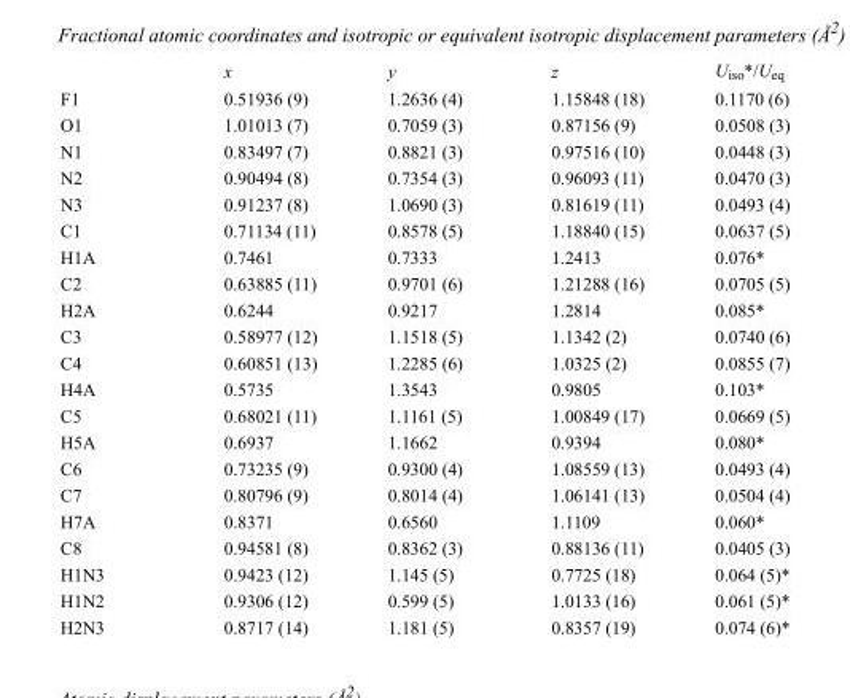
<table><thead><tr><td></td><td>x</td><td>y</td><td>z</td><td>U<sub>iso</sub>*/U<sub>eq</sub></td></tr></thead><tbody><tr><td>F1</td><td>0.51936 (9)</td><td>1.2636 (4)</td><td>1.15848 (18)</td><td>0.1170 (6)</td></tr><tr><td>O1</td><td>1.01013 (7)</td><td>0.7059 (3)</td><td>0.87156 (9)</td><td>0.0508 (3)</td></tr><tr><td>N1</td><td>0.83497 (7)</td><td>0.8821 (3)</td><td>0.97516 (10)</td><td>0.0448 (3)</td></tr><tr><td>N2</td><td>0.90494 (8)</td><td>0.7354 (3)</td><td>0.96093 (11)</td><td>0.0470 (3)</td></tr><tr><td>N3</td><td>0.91237 (8)</td><td>1.0690 (3)</td><td>0.81619 (11)</td><td>0.0493 (4)</td></tr><tr><td>C1</td><td>0.71134 (11)</td><td>0.8578 (5)</td><td>1.18840 (15)</td><td>0.0637 (5)</td></tr><tr><td>H1A</td><td>0.7461</td><td>0.7333</td><td>1.2413</td><td>0.076*</td></tr><tr><td>C2</td><td>0.63885 (11)</td><td>0.9701 (6)</td><td>1.21288 (16)</td><td>0.0705 (5)</td></tr><tr><td>H2A</td><td>0.6244</td><td>0.9217</td><td>1.2814</td><td>0.085*</td></tr><tr><td>C3</td><td>0.58977 (12)</td><td>1.1518 (5)</td><td>1.1342 (2)</td><td>0.0740 (6)</td></tr><tr><td>C4</td><td>0.60851 (13)</td><td>1.2285 (6)</td><td>1.0325 (2)</td><td>0.0855 (7)</td></tr><tr><td>H4A</td><td>0.5735</td><td>1.3543</td><td>0.9805</td><td>0.103*</td></tr><tr><td>C5</td><td>0.68021 (11)</td><td>1.1161 (5)</td><td>1.00849 (17)</td><td>0.0669 (5)</td></tr><tr><td>H5A</td><td>0.6937</td><td>1.1662</td><td>0.9394</td><td>0.080*</td></tr><tr><td>C6</td><td>0.73235 (9)</td><td>0.9300 (4)</td><td>1.08559 (13)</td><td>0.0493 (4)</td></tr><tr><td>C7</td><td>0.80796 (9)</td><td>0.8014 (4)</td><td>1.06141 (13)</td><td>0.0504 (4)</td></tr><tr><td>H7A</td><td>0.8371</td><td>0.6560</td><td>1.1109</td><td>0.060*</td></tr><tr><td>C8</td><td>0.94581 (8)</td><td>0.8362 (3)</td><td>0.88136 (11)</td><td>0.0405 (3)</td></tr><tr><td>H1N3</td><td>0.9423 (12)</td><td>1.145 (5)</td><td>0.7725 (18)</td><td>0.064 (5)*</td></tr><tr><td>H1N2</td><td>0.9306 (12)</td><td>0.599 (5)</td><td>1.0133 (16)</td><td>0.061 (5)*</td></tr><tr><td>H2N3</td><td>0.8717 (14)</td><td>1.181 (5)</td><td>0.8357 (19)</td><td>0.074 (6)*</td></tr></tbody></table>